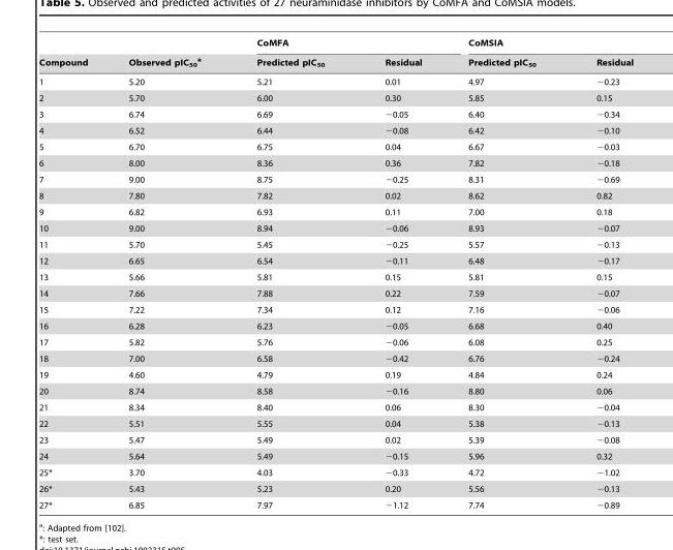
<table><thead><tr><td rowspan="2">Compound</td><td rowspan="2">Observed pIC50 a</td><td colspan="2">CoMFA</td><td colspan="2">CoMSIA</td></tr><tr><td>Predicted pIC50</td><td>Residual</td><td>Predicted pIC50</td><td>Residual</td></tr></thead><tbody><tr><td>1</td><td>5.20</td><td>5.21</td><td>0.01</td><td>4.97</td><td>−0.23</td></tr><tr><td>2</td><td>5.70</td><td>6.00</td><td>0.30</td><td>5.85</td><td>0.15</td></tr><tr><td>3</td><td>6.74</td><td>6.69</td><td>−0.05</td><td>6.40</td><td>−0.34</td></tr><tr><td>4</td><td>6.52</td><td>6.44</td><td>−0.08</td><td>6.42</td><td>−0.10</td></tr><tr><td>5</td><td>6.70</td><td>6.75</td><td>0.04</td><td>6.67</td><td>−0.03</td></tr><tr><td>6</td><td>8.00</td><td>8.36</td><td>0.36</td><td>7.82</td><td>−0.18</td></tr><tr><td>7</td><td>9.00</td><td>8.75</td><td>−0.25</td><td>8.31</td><td>−0.69</td></tr><tr><td>8</td><td>7.80</td><td>7.82</td><td>0.02</td><td>8.62</td><td>0.82</td></tr><tr><td>9</td><td>6.82</td><td>6.93</td><td>0.11</td><td>7.00</td><td>0.18</td></tr><tr><td>10</td><td>9.00</td><td>8.94</td><td>−0.06</td><td>8.93</td><td>−0.07</td></tr><tr><td>11</td><td>5.70</td><td>5.45</td><td>−0.25</td><td>5.57</td><td>−0.13</td></tr><tr><td>12</td><td>6.65</td><td>6.54</td><td>−0.11</td><td>6.48</td><td>−0.17</td></tr><tr><td>13</td><td>5.66</td><td>5.81</td><td>0.15</td><td>5.81</td><td>0.15</td></tr><tr><td>14</td><td>7.66</td><td>7.88</td><td>0.22</td><td>7.59</td><td>−0.07</td></tr><tr><td>15</td><td>7.22</td><td>7.34</td><td>0.12</td><td>7.16</td><td>−0.06</td></tr><tr><td>16</td><td>6.28</td><td>6.23</td><td>−0.05</td><td>6.68</td><td>0.40</td></tr><tr><td>17</td><td>5.82</td><td>5.76</td><td>−0.06</td><td>6.08</td><td>0.25</td></tr><tr><td>18</td><td>7.00</td><td>6.58</td><td>−0.42</td><td>6.76</td><td>−0.24</td></tr><tr><td>19</td><td>4.60</td><td>4.79</td><td>0.19</td><td>4.84</td><td>0.24</td></tr><tr><td>20</td><td>8.74</td><td>8.58</td><td>−0.16</td><td>8.80</td><td>0.06</td></tr><tr><td>21</td><td>8.34</td><td>8.40</td><td>0.06</td><td>8.30</td><td>−0.04</td></tr><tr><td>22</td><td>5.51</td><td>5.55</td><td>0.04</td><td>5.38</td><td>−0.13</td></tr><tr><td>23</td><td>5.47</td><td>5.49</td><td>0.02</td><td>5.39</td><td>−0.08</td></tr><tr><td>24</td><td>5.64</td><td>5.49</td><td>−0.15</td><td>5.96</td><td>0.32</td></tr><tr><td>25*</td><td>3.70</td><td>4.03</td><td>−0.33</td><td>4.72</td><td>−1.02</td></tr><tr><td>26*</td><td>5.43</td><td>5.23</td><td>0.20</td><td>5.56</td><td>−0.13</td></tr><tr><td>27*</td><td>6.85</td><td>7.97</td><td>−1.12</td><td>7.74</td><td>−0.89</td></tr></tbody></table>